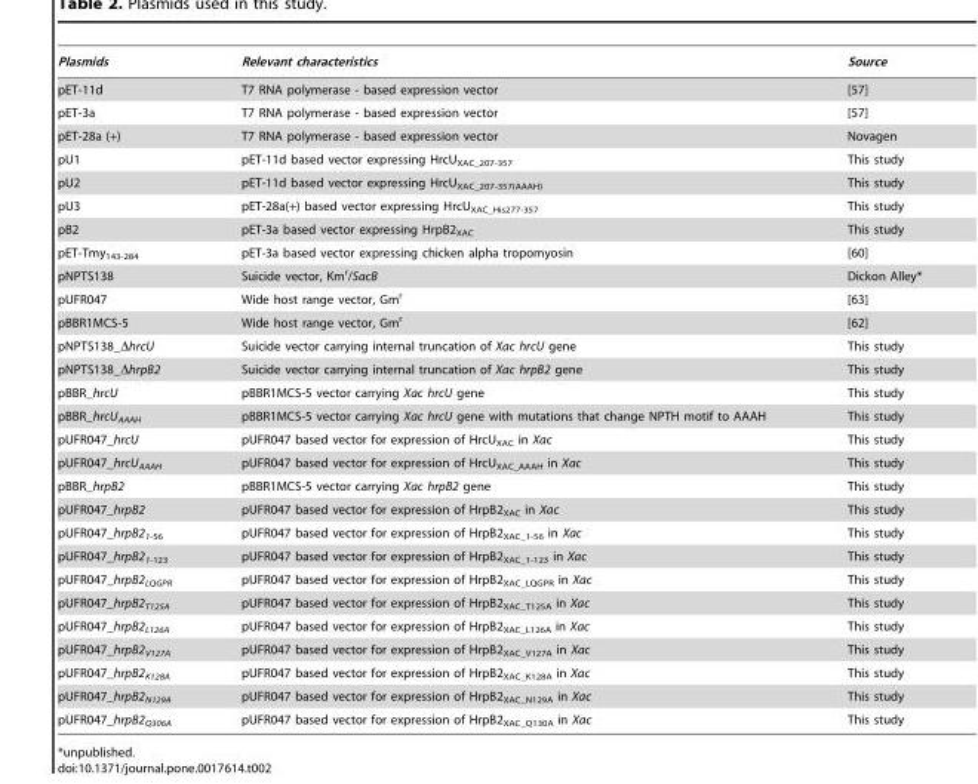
<table><thead><tr><td>Plasmids</td><td>Relevant characteristics</td><td>Source</td></tr></thead><tbody><tr><td>pET-11d</td><td>T7 RNA polymerase - based expression vector</td><td>[57]</td></tr><tr><td>pET-3a</td><td>T7 RNA polymerase - based expression vector</td><td>[57]</td></tr><tr><td>pET-28a (+)</td><td>T7 RNA polymerase - based expression vector</td><td>Novagen</td></tr><tr><td>pU1</td><td>pET-11d based vector expressing HrcU<sub>XAC_207-357</sub></td><td>This study</td></tr><tr><td>pU2</td><td>pET-11d based vector expressing HrcU<sub>XAC_207-357(AAAH)</sub></td><td>This study</td></tr><tr><td>pU3</td><td>pET-28a(+) based vector expressing HrcU<sub>XAC_His277-357</sub></td><td>This study</td></tr><tr><td>pB2</td><td>pET-3a based vector expressing HrpB2<sub>XAC</sub></td><td>This study</td></tr><tr><td>pET-Tmy<sub>143-284</sub></td><td>pET-3a based vector expressing chicken alpha tropomyosin</td><td>[60]</td></tr><tr><td>pNPTS138</td><td>Suicide vector, Km<sup>r</sup>/SacB</td><td>Dickon Alley*</td></tr><tr><td>pUFR047</td><td>Wide host range vector, Gm<sup>r</sup></td><td>[63]</td></tr><tr><td>pBBR1MCS-5</td><td>Wide host range vector, Gm<sup>r</sup></td><td>[62]</td></tr><tr><td>pNPTS138_ΔhrcU</td><td>Suicide vector carrying internal truncation of Xac hrcU gene</td><td>This study</td></tr><tr><td>pNPTS138_ΔhrpB2</td><td>Suicide vector carrying internal truncation of Xac hrpB2 gene</td><td>This study</td></tr><tr><td>pBBR_hrcU</td><td>pBBR1MCS-5 vector carrying Xac hrcU gene</td><td>This study</td></tr><tr><td>pBBR_hrcU<sub>AAAH</sub></td><td>pBBR1MCS-5 vector carrying Xac hrcU gene with mutations that change NPTH motif to AAAH</td><td>This study</td></tr><tr><td>pUFR047_hrcU</td><td>pUFR047 based vector for expression of HrcU<sub>XAC</sub> in Xac</td><td>This study</td></tr><tr><td>pUFR047_hrcU<sub>AAAH</sub></td><td>pUFR047 based vector for expression of HrcU<sub>XAC_AAAH</sub> in Xac</td><td>This study</td></tr><tr><td>pBBR_hrpB2</td><td>pBBR1MCS-5 vector carrying Xac hrpB2 gene</td><td>This study</td></tr><tr><td>pUFR047_hrpB2</td><td>pUFR047 based vector for expression of HrpB2<sub>XAC</sub> in Xac</td><td>This study</td></tr><tr><td>pUFR047_hrpB2<sub>1-56</sub></td><td>pUFR047 based vector for expression of HrpB2<sub>XAC_1-56</sub> in Xac</td><td>This study</td></tr><tr><td>pUFR047_hrpB2<sub>1-123</sub></td><td>pUFR047 based vector for expression of HrpB2<sub>XAC_1-123</sub> in Xac</td><td>This study</td></tr><tr><td>pUFR047_hrpB2<sub>LQGPR</sub></td><td>pUFR047 based vector for expression of HrpB2<sub>XAC_LQGPR</sub> in Xac</td><td>This study</td></tr><tr><td>pUFR047_hrpB2<sub>T125A</sub></td><td>pUFR047 based vector for expression of HrpB2<sub>XAC_T125A</sub> in Xac</td><td>This study</td></tr><tr><td>pUFR047_hrpB2<sub>L126A</sub></td><td>pUFR047 based vector for expression of HrpB2<sub>XAC_L126A</sub> in Xac</td><td>This study</td></tr><tr><td>pUFR047_hrpB2<sub>V127A</sub></td><td>pUFR047 based vector for expression of HrpB2<sub>XAC_V127A</sub> in Xac</td><td>This study</td></tr><tr><td>pUFR047_hrpB2<sub>K128A</sub></td><td>pUFR047 based vector for expression of HrpB2<sub>XAC_K128A</sub> in Xac</td><td>This study</td></tr><tr><td>pUFR047_hrpB2<sub>N129A</sub></td><td>pUFR047 based vector for expression of HrpB2<sub>XAC_N129A</sub> in Xac</td><td>This study</td></tr><tr><td>pUFR047_hrpB2<sub>Q306A</sub></td><td>pUFR047 based vector for expression of HrpB2<sub>XAC_Q130A</sub> in Xac</td><td>This study</td></tr></tbody></table>